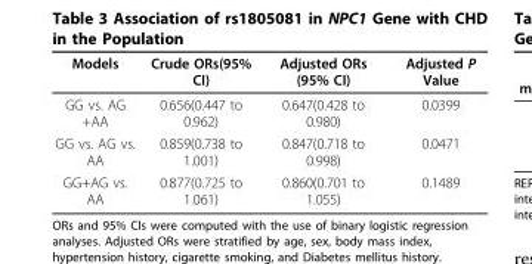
<table><thead><tr><td>Models</td><td>Crude ORs(95% CI)</td><td>Adjusted ORs (95% CI)</td><td>Adjusted P Value</td></tr></thead><tbody><tr><td>GG vs. AG +AA</td><td>0.656(0.447 to 0.962)</td><td>0.647(0.428 to 0.980)</td><td>0.0399</td></tr><tr><td>GG vs. AG vs. AA</td><td>0.859(0.738 to 1.001)</td><td>0.847(0.718 to 0.998)</td><td>0.0471</td></tr><tr><td>GG+AG vs. AA</td><td>0.877(0.725 to 1.061)</td><td>0.860(0.701 to 1.055)</td><td>0.1489</td></tr></tbody></table>